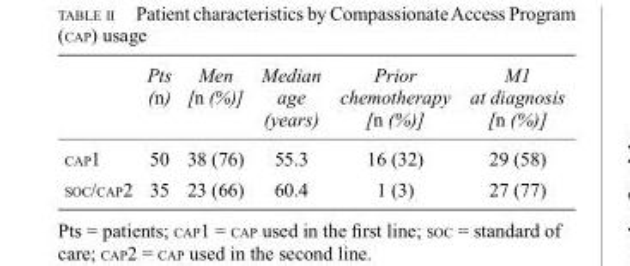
<table><thead><tr><td></td><td>Pts (n)</td><td>Men [n (%)]</td><td>Median age (years)</td><td>Prior chemotherapy [n (%)]</td><td>M1 at diagnosis [n (%)]</td></tr></thead><tbody><tr><td>cap1</td><td>50</td><td>38 (76)</td><td>55.3</td><td>16 (32)</td><td>29 (58)</td></tr><tr><td>soc/cap2</td><td>35</td><td>23 (66)</td><td>60.4</td><td>1 (3)</td><td>27 (77)</td></tr></tbody></table>